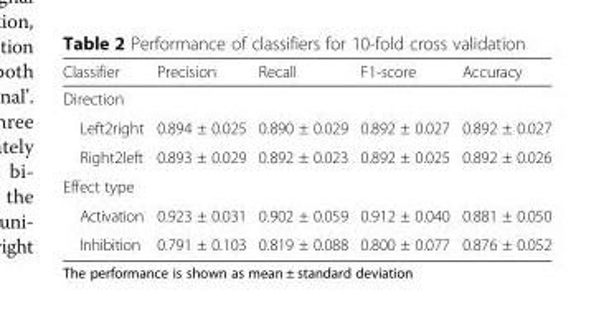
<table><thead><tr><td>Classifier</td><td>Precision</td><td>Recall</td><td>F1-score</td><td>Accuracy</td></tr></thead><tbody><tr><td colspan="5">Direction</td></tr><tr><td>Left2right</td><td>0.894 ± 0.025</td><td>0.890 ± 0.029</td><td>0.892 ± 0.027</td><td>0.892 ± 0.027</td></tr><tr><td>Right2left</td><td>0.893 ± 0.029</td><td>0.892 ± 0.023</td><td>0.892 ± 0.025</td><td>0.892 ± 0.026</td></tr><tr><td colspan="5">Effect type</td></tr><tr><td>Activation</td><td>0.923 ± 0.031</td><td>0.902 ± 0.059</td><td>0.912 ± 0.040</td><td>0.881 ± 0.050</td></tr><tr><td>Inhibition</td><td>0.791 ± 0.103</td><td>0.819 ± 0.088</td><td>0.800 ± 0.077</td><td>0.876 ± 0.052</td></tr></tbody></table>